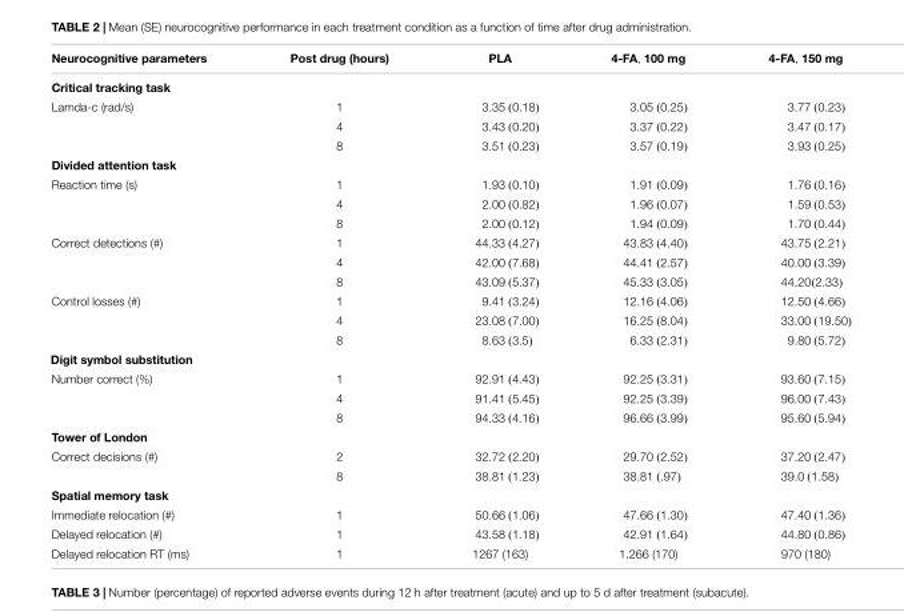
<table><thead><tr><td>Neurocognitive parameters</td><td>Post drug (hours)</td><td>PLA</td><td>4-FA, 100 mg</td><td>4-FA, 150 mg</td></tr></thead><tbody><tr><td colspan="5">Critical tracking task</td></tr><tr><td rowspan="3">Lamda-c (rad/s)</td><td>1</td><td>3.35 (0.18)</td><td>3.05 (0.25)</td><td>3.77 (0.23)</td></tr><tr><td>4</td><td>3.43 (0.20)</td><td>3.37 (0.22)</td><td>3.47 (0.17)</td></tr><tr><td>8</td><td>3.51 (0.23)</td><td>3.57 (0.19)</td><td>3.93 (0.25)</td></tr><tr><td colspan="5">Divided attention task</td></tr><tr><td rowspan="3">Reaction time (s)</td><td>1</td><td>1.93 (0.10)</td><td>1.91 (0.09)</td><td>1.76 (0.16)</td></tr><tr><td>4</td><td>2.00 (0.82)</td><td>1.96 (0.07)</td><td>1.59 (0.53)</td></tr><tr><td>8</td><td>2.00 (0.12)</td><td>1.94 (0.09)</td><td>1.70 (0.44)</td></tr><tr><td rowspan="3">Correct detections (#)</td><td>1</td><td>44.33 (4.27)</td><td>43.83 (4.40)</td><td>43.75 (2.21)</td></tr><tr><td>4</td><td>42.00 (7.68)</td><td>44.41 (2.57)</td><td>40.00 (3.39)</td></tr><tr><td>8</td><td>43.09 (5.37)</td><td>45.33 (3.05)</td><td>44.20(2.33)</td></tr><tr><td rowspan="3">Control losses (#)</td><td>1</td><td>9.41 (3.24)</td><td>12.16 (4.06)</td><td>12.50 (4.66)</td></tr><tr><td>4</td><td>23.08 (7.00)</td><td>16.25 (8.04)</td><td>33.00 (19.50)</td></tr><tr><td>8</td><td>8.63 (3.5)</td><td>6.33 (2.31)</td><td>9.80 (5.72)</td></tr><tr><td colspan="5">Digit symbol substitution</td></tr><tr><td rowspan="3">Number correct (%)</td><td>1</td><td>92.91 (4.43)</td><td>92.25 (3.31)</td><td>93.60 (7.15)</td></tr><tr><td>4</td><td>91.41 (5.45)</td><td>92.25 (3.39)</td><td>96.00 (7.43)</td></tr><tr><td>8</td><td>94.33 (4.16)</td><td>96.66 (3.99)</td><td>95.60 (5.94)</td></tr><tr><td colspan="5">Tower of London</td></tr><tr><td rowspan="2">Correct decisions (#)</td><td>2</td><td>32.72 (2.20)</td><td>29.70 (2.52)</td><td>37.20 (2.47)</td></tr><tr><td>8</td><td>38.81 (1.23)</td><td>38.81 (.97)</td><td>39.0 (1.58)</td></tr><tr><td colspan="5">Spatial memory task</td></tr><tr><td>Immediate relocation (#)</td><td>1</td><td>50.66 (1.06)</td><td>47.66 (1.30)</td><td>47.40 (1.36)</td></tr><tr><td>Delayed relocation (#)</td><td>1</td><td>43.58 (1.18)</td><td>42.91 (1.64)</td><td>44.80 (0.86)</td></tr><tr><td>Delayed relocation RT (ms)</td><td>1</td><td>1267 (163)</td><td>1.266 (170)</td><td>970 (180)</td></tr></tbody></table>